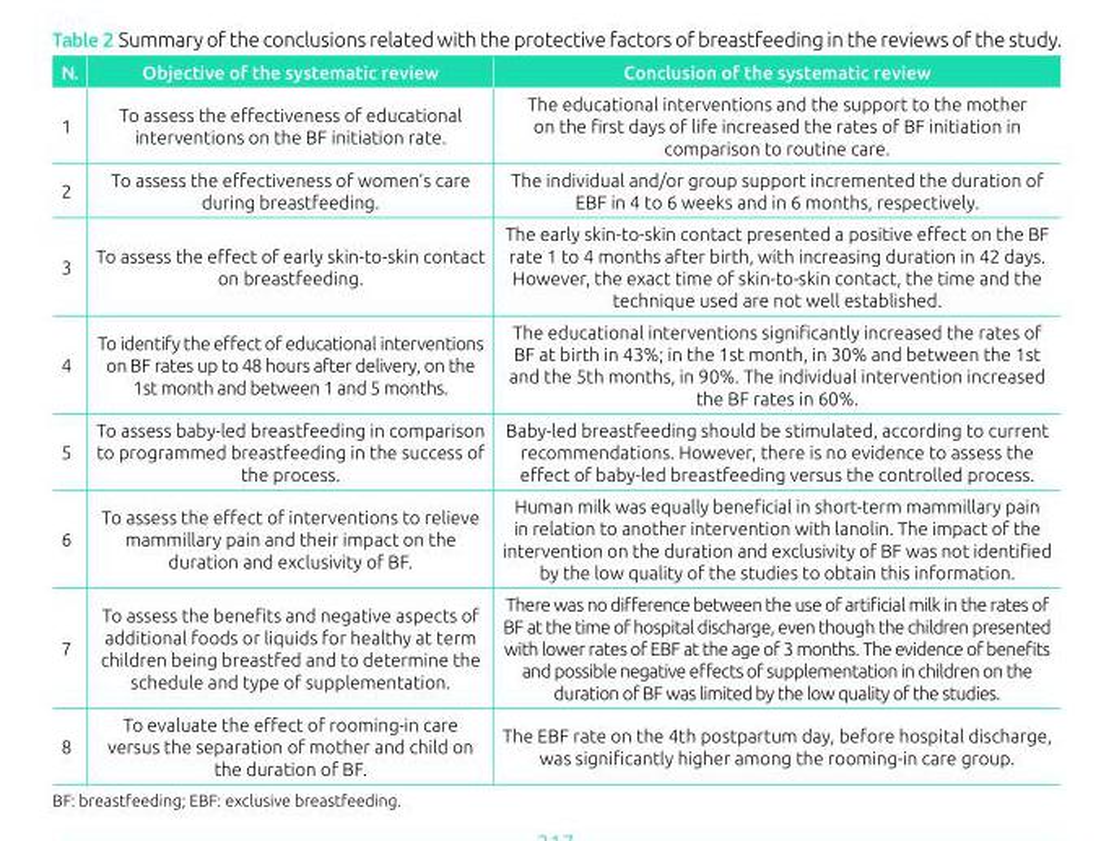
<table><thead><tr><td>N.</td><td>Objective of the systematic review</td><td>Conclusion of the systematic review</td></tr></thead><tbody><tr><td>1</td><td>To assess the effectiveness of educational interventions on the BF initiation rate.</td><td>The educational interventions and the support to the mother on the first days of life increased the rates of BF initiation in comparison to routine care.</td></tr><tr><td>2</td><td>To assess the effectiveness of women’s care during breastfeeding.</td><td>The individual and/or group support incremented the duration of EBF in 4 to 6 weeks and in 6 months, respectively.</td></tr><tr><td>3</td><td>To assess the effect of early skin-to-skin contact on breastfeeding.</td><td>The early skin-to-skin contact presented a positive effect on the BF rate 1 to 4 months after birth, with increasing duration in 42 days. However, the exact time of skin-to-skin contact, the time and the technique used are not well established.</td></tr><tr><td>4</td><td>To identify the effect of educational interventions on BF rates up to 48 hours after delivery, on the 1st month and between 1 and 5 months.</td><td>The educational interventions significantly increased the rates of BF at birth in 43%; in the 1st month, in 30% and between the 1st and the 5th months, in 90%. The individual intervention increased the BF rates in 60%.</td></tr><tr><td>5</td><td>To assess baby-led breastfeeding in comparison to programmed breastfeeding in the success of the process.</td><td>Baby-led breastfeeding should be stimulated, according to current recommendations. However, there is no evidence to assess the effect of baby-led breastfeeding versus the controlled process.</td></tr><tr><td>6</td><td>To assess the effect of interventions to relieve mammillary pain and their impact on the duration and exclusivity of BF.</td><td>Human milk was equally beneficial in short-term mammillary pain in relation to another intervention with lanolin. The impact of the intervention on the duration and exclusivity of BF was not identified by the low quality of the studies to obtain this information.</td></tr><tr><td>7</td><td>To assess the benefits and negative aspects of additional foods or liquids for healthy at term children being breastfed and to determine the schedule and type of supplementation.</td><td>There was no difference between the use of artificial milk in the rates of BF at the time of hospital discharge, even though the children presented with lower rates of EBF at the age of 3 months. The evidence of benefits and possible negative effects of supplementation in children on the duration of BF was limited by the low quality of the studies.</td></tr><tr><td>8</td><td>To evaluate the effect of rooming-in care versus the separation of mother and child on the duration of BF.</td><td>The EBF rate on the 4th postpartum day, before hospital discharge, was significantly higher among the rooming-in care group.</td></tr></tbody></table>